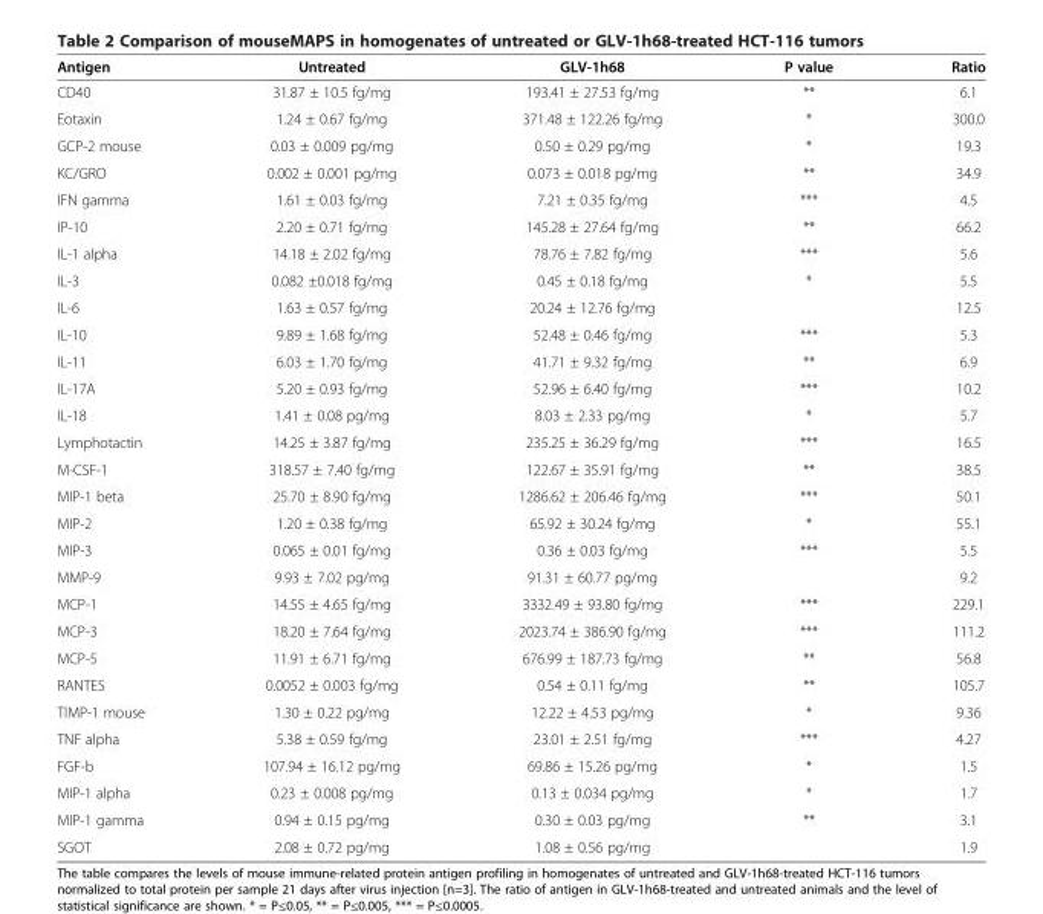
<table><thead><tr><td>Antigen</td><td>Untreated</td><td>GLV-1h68</td><td>P value</td><td>Ratio</td></tr></thead><tbody><tr><td>CD40</td><td>31.87 ± 10.5 fg/mg</td><td>193.41 ± 27.53 fg/mg</td><td>**</td><td>6.1</td></tr><tr><td>Eotaxin</td><td>1.24 ± 0.67 fg/mg</td><td>371.48 ± 122.26 fg/mg</td><td>*</td><td>300.0</td></tr><tr><td>GCP-2 mouse</td><td>0.03 ± 0.009 pg/mg</td><td>0.50 ± 0.29 pg/mg</td><td>*</td><td>19.3</td></tr><tr><td>KC/GRO</td><td>0.002 ± 0.001 pg/mg</td><td>0.073 ± 0.018 pg/mg</td><td>**</td><td>34.9</td></tr><tr><td>IFN gamma</td><td>1.61 ± 0.03 fg/mg</td><td>7.21 ± 0.35 fg/mg</td><td>***</td><td>4.5</td></tr><tr><td>IP-10</td><td>2.20 ± 0.71 fg/mg</td><td>145.28 ± 27.64 fg/mg</td><td>**</td><td>66.2</td></tr><tr><td>IL-1 alpha</td><td>14.18 ± 2.02 fg/mg</td><td>78.76 ± 7.82 fg/mg</td><td>***</td><td>5.6</td></tr><tr><td>IL-3</td><td>0.082 ±0.018 fg/mg</td><td>0.45 ± 0.18 fg/mg</td><td>*</td><td>5.5</td></tr><tr><td>IL-6</td><td>1.63 ± 0.57 fg/mg</td><td>20.24 ± 12.76 fg/mg</td><td></td><td>12.5</td></tr><tr><td>IL-10</td><td>9.89 ± 1.68 fg/mg</td><td>52.48 ± 0.46 fg/mg</td><td>***</td><td>5.3</td></tr><tr><td>IL-11</td><td>6.03 ± 1.70 fg/mg</td><td>41.71 ± 9.32 fg/mg</td><td>**</td><td>6.9</td></tr><tr><td>IL-17A</td><td>5.20 ± 0.93 fg/mg</td><td>52.96 ± 6.40 fg/mg</td><td>***</td><td>10.2</td></tr><tr><td>IL-18</td><td>1.41 ± 0.08 pg/mg</td><td>8.03 ± 2.33 pg/mg</td><td>*</td><td>5.7</td></tr><tr><td>Lymphotactin</td><td>14.25 ± 3.87 fg/mg</td><td>235.25 ± 36.29 fg/mg</td><td>***</td><td>16.5</td></tr><tr><td>M-CSF-1</td><td>318.57 ± 7.40 fg/mg</td><td>122.67 ± 35.91 fg/mg</td><td>**</td><td>38.5</td></tr><tr><td>MIP-1 beta</td><td>25.70 ± 8.90 fg/mg</td><td>1286.62 ± 206.46 fg/mg</td><td>***</td><td>50.1</td></tr><tr><td>MIP-2</td><td>1.20 ± 0.38 fg/mg</td><td>65.92 ± 30.24 fg/mg</td><td>*</td><td>55.1</td></tr><tr><td>MIP-3</td><td>0.065 ± 0.01 fg/mg</td><td>0.36 ± 0.03 fg/mg</td><td>***</td><td>5.5</td></tr><tr><td>MMP-9</td><td>9.93 ± 7.02 pg/mg</td><td>91.31 ± 60.77 pg/mg</td><td></td><td>9.2</td></tr><tr><td>MCP-1</td><td>14.55 ± 4.65 fg/mg</td><td>3332.49 ± 93.80 fg/mg</td><td>***</td><td>229.1</td></tr><tr><td>MCP-3</td><td>18.20 ± 7.64 fg/mg</td><td>2023.74 ± 386.90 fg/mg</td><td>***</td><td>111.2</td></tr><tr><td>MCP-5</td><td>11.91 ± 6.71 fg/mg</td><td>676.99 ± 187.73 fg/mg</td><td>**</td><td>56.8</td></tr><tr><td>RANTES</td><td>0.0052 ± 0.003 fg/mg</td><td>0.54 ± 0.11 fg/mg</td><td>**</td><td>105.7</td></tr><tr><td>TIMP-1 mouse</td><td>1.30 ± 0.22 pg/mg</td><td>12.22 ± 4.53 pg/mg</td><td>*</td><td>9.36</td></tr><tr><td>TNF alpha</td><td>5.38 ± 0.59 fg/mg</td><td>23.01 ± 2.51 fg/mg</td><td>***</td><td>4.27</td></tr><tr><td>FGF-b</td><td>107.94 ± 16.12 pg/mg</td><td>69.86 ± 15.26 pg/mg</td><td>*</td><td>1.5</td></tr><tr><td>MIP-1 alpha</td><td>0.23 ± 0.008 pg/mg</td><td>0.13 ± 0.034 pg/mg</td><td>*</td><td>1.7</td></tr><tr><td>MIP-1 gamma</td><td>0.94 ± 0.15 pg/mg</td><td>0.30 ± 0.03 pg/mg</td><td>**</td><td>3.1</td></tr><tr><td>SGOT</td><td>2.08 ± 0.72 pg/mg</td><td>1.08 ± 0.56 pg/mg</td><td></td><td>1.9</td></tr></tbody></table>